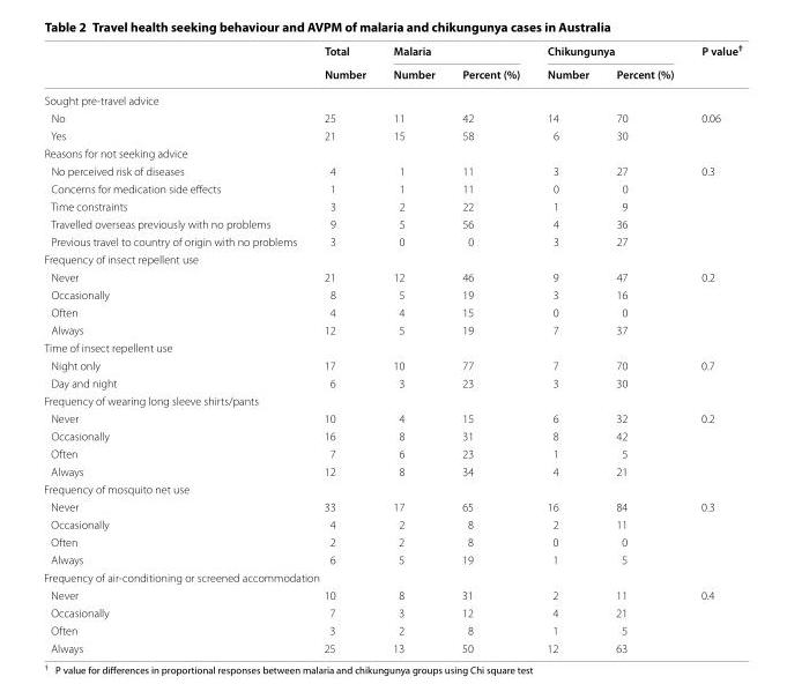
<table><thead><tr><td rowspan="2"></td><td rowspan="2">Total Number</td><td colspan="2">Malaria</td><td colspan="2">Chikungunya</td><td rowspan="2">P value<sup>†</sup></td></tr><tr><td>Number</td><td>Percent (%)</td><td>Number</td><td>Percent (%)</td></tr></thead><tbody><tr><td colspan="7">Sought pre-travel advice</td></tr><tr><td>No</td><td>25</td><td>11</td><td>42</td><td>14</td><td>70</td><td rowspan="2">0.06</td></tr><tr><td>Yes</td><td>21</td><td>15</td><td>58</td><td>6</td><td>30</td></tr><tr><td colspan="7">Reasons for not seeking advice</td></tr><tr><td>No perceived risk of diseases</td><td>4</td><td>1</td><td>11</td><td>3</td><td>27</td><td rowspan="5">0.3</td></tr><tr><td>Concerns for medication side effects</td><td>1</td><td>1</td><td>11</td><td>0</td><td>0</td></tr><tr><td>Time constraints</td><td>3</td><td>2</td><td>22</td><td>1</td><td>9</td></tr><tr><td>Travelled overseas previously with no problems</td><td>9</td><td>5</td><td>56</td><td>4</td><td>36</td></tr><tr><td>Previous travel to country of origin with no problems</td><td>3</td><td>0</td><td>0</td><td>3</td><td>27</td></tr><tr><td colspan="7">Frequency of insect repellent use</td></tr><tr><td>Never</td><td>21</td><td>12</td><td>46</td><td>9</td><td>47</td><td rowspan="4">0.2</td></tr><tr><td>Occasionally</td><td>8</td><td>5</td><td>19</td><td>3</td><td>16</td></tr><tr><td>Often</td><td>4</td><td>4</td><td>15</td><td>0</td><td>0</td></tr><tr><td>Always</td><td>12</td><td>5</td><td>19</td><td>7</td><td>37</td></tr><tr><td colspan="7">Time of insect repellent use</td></tr><tr><td>Night only</td><td>17</td><td>10</td><td>77</td><td>7</td><td>70</td><td rowspan="2">0.7</td></tr><tr><td>Day and night</td><td>6</td><td>3</td><td>23</td><td>3</td><td>30</td></tr><tr><td colspan="7">Frequency of wearing long sleeve shirts/pants</td></tr><tr><td>Never</td><td>10</td><td>4</td><td>15</td><td>6</td><td>32</td><td rowspan="4">0.2</td></tr><tr><td>Occasionally</td><td>16</td><td>8</td><td>31</td><td>8</td><td>42</td></tr><tr><td>Often</td><td>7</td><td>6</td><td>23</td><td>1</td><td>5</td></tr><tr><td>Always</td><td>12</td><td>8</td><td>34</td><td>4</td><td>21</td></tr><tr><td colspan="7">Frequency of mosquito net use</td></tr><tr><td>Never</td><td>33</td><td>17</td><td>65</td><td>16</td><td>84</td><td rowspan="4">0.3</td></tr><tr><td>Occasionally</td><td>4</td><td>2</td><td>8</td><td>2</td><td>11</td></tr><tr><td>Often</td><td>2</td><td>2</td><td>8</td><td>0</td><td>0</td></tr><tr><td>Always</td><td>6</td><td>5</td><td>19</td><td>1</td><td>5</td></tr><tr><td colspan="7">Frequency of air-conditioning or screened accommodation</td></tr><tr><td>Never</td><td>10</td><td>8</td><td>31</td><td>2</td><td>11</td><td rowspan="4">0.4</td></tr><tr><td>Occasionally</td><td>7</td><td>3</td><td>12</td><td>4</td><td>21</td></tr><tr><td>Often</td><td>3</td><td>2</td><td>8</td><td>1</td><td>5</td></tr><tr><td>Always</td><td>25</td><td>13</td><td>50</td><td>12</td><td>63</td></tr></tbody></table>